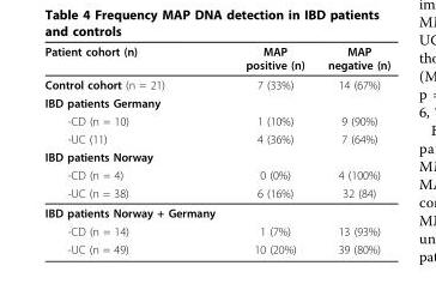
<table><thead><tr><td>Patient cohort (n)</td><td>MAP positive (n)</td><td>MAP negative (n)</td></tr></thead><tbody><tr><td>Control cohort (n = 21)</td><td>7 (33%)</td><td>14 (67%)</td></tr><tr><td colspan="3">IBD patients Germany</td></tr><tr><td>-CD (n = 10)</td><td>1 (10%)</td><td>9 (90%)</td></tr><tr><td>-UC (11)</td><td>4 (36%)</td><td>7 (64%)</td></tr><tr><td colspan="3">IBD patients Norway</td></tr><tr><td>-CD (n = 4)</td><td>0 (0%)</td><td>4 (100%)</td></tr><tr><td>-UC (n = 38)</td><td>6 (16%)</td><td>32 (84)</td></tr><tr><td colspan="3">IBD patients Norway + Germany</td></tr><tr><td>-CD (n = 14)</td><td>1 (7%)</td><td>13 (93%)</td></tr><tr><td>-UC (n = 49)</td><td>10 (20%)</td><td>39 (80%)</td></tr></tbody></table>